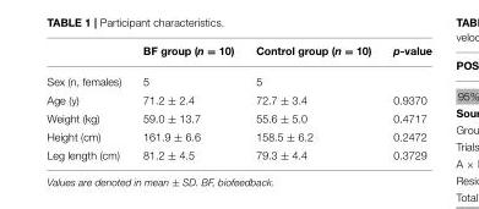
<table><thead><tr><td></td><td>BF group (n = 10)</td><td>Control group (n = 10)</td><td>p-value</td></tr></thead><tbody><tr><td>Sex (n, females)</td><td>5</td><td>5</td><td></td></tr><tr><td>Age (y)</td><td>71.2 ± 2.4</td><td>72.7 ± 3.4</td><td>0.9370</td></tr><tr><td>Weight (kg)</td><td>59.0 ± 13.7</td><td>55.6 ± 5.0</td><td>0.4717</td></tr><tr><td>Height (cm)</td><td>161.9 ± 6.6</td><td>158.5 ± 6.2</td><td>0.2472</td></tr><tr><td>Leg length (cm)</td><td>81.2 ± 4.5</td><td>79.3 ± 4.4</td><td>0.3729</td></tr></tbody></table>